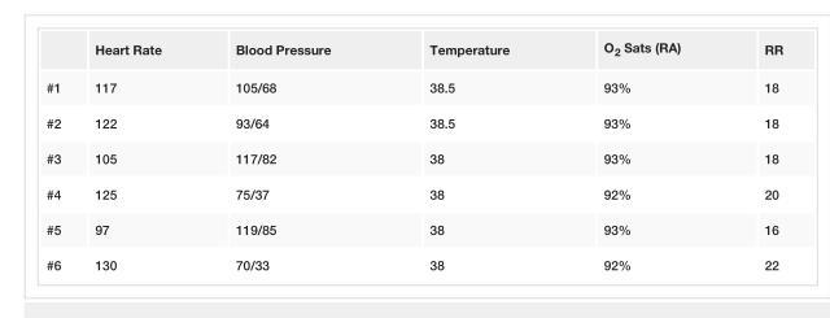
<table><thead><tr><td></td><td>Heart Rate</td><td>Blood Pressure</td><td>Temperature</td><td>O<sub>2</sub> Sats (RA)</td><td>RR</td></tr></thead><tbody><tr><td>#1</td><td>117</td><td>105/68</td><td>38.5</td><td>93%</td><td>18</td></tr><tr><td>#2</td><td>122</td><td>93/64</td><td>38.5</td><td>93%</td><td>18</td></tr><tr><td>#3</td><td>105</td><td>117/82</td><td>38</td><td>93%</td><td>18</td></tr><tr><td>#4</td><td>125</td><td>75/37</td><td>38</td><td>92%</td><td>20</td></tr><tr><td>#5</td><td>97</td><td>119/85</td><td>38</td><td>93%</td><td>16</td></tr><tr><td>#6</td><td>130</td><td>70/33</td><td>38</td><td>92%</td><td>22</td></tr></tbody></table>